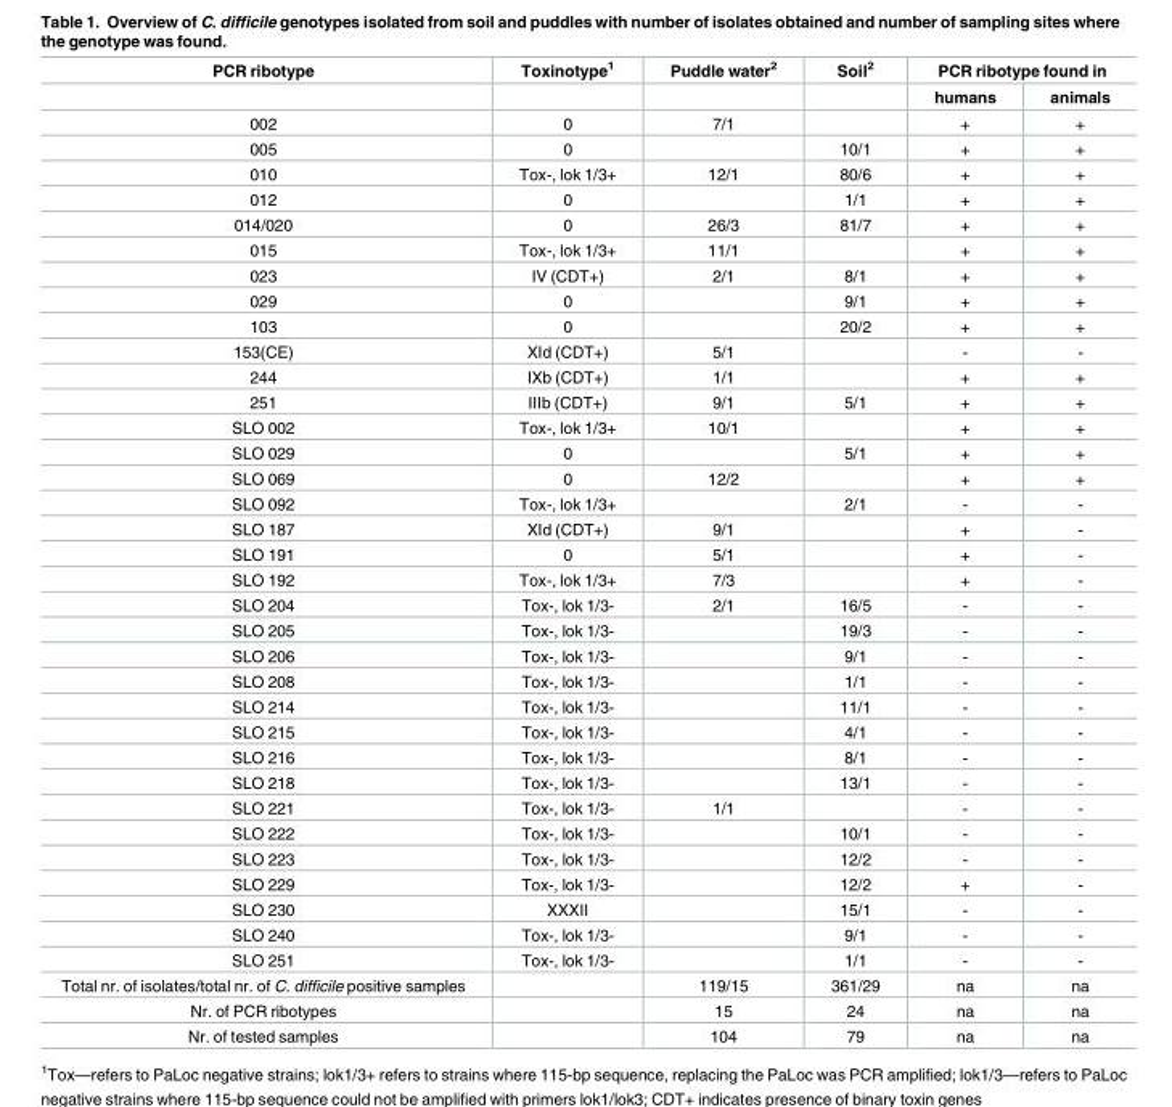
<table><thead><tr><td rowspan="2">PCR ribotype</td><td rowspan="2">Toxinotype<sup>1</sup></td><td rowspan="2">Puddle water<sup>2</sup></td><td rowspan="2">Soil<sup>2</sup></td><td colspan="2">PCR ribotype found in</td></tr><tr><td>humans</td><td>animals</td></tr></thead><tbody><tr><td>002</td><td>0</td><td>7/1</td><td></td><td>+</td><td>+</td></tr><tr><td>005</td><td>0</td><td></td><td>10/1</td><td>+</td><td>+</td></tr><tr><td>010</td><td>Tox-, lok 1/3+</td><td>12/1</td><td>80/6</td><td>+</td><td>+</td></tr><tr><td>012</td><td>0</td><td></td><td>1/1</td><td>+</td><td>+</td></tr><tr><td>014/020</td><td>0</td><td>26/3</td><td>81/7</td><td>+</td><td>+</td></tr><tr><td>015</td><td>Tox-, lok 1/3+</td><td>11/1</td><td></td><td>+</td><td>+</td></tr><tr><td>023</td><td>IV (CDT+)</td><td>2/1</td><td>8/1</td><td>+</td><td>+</td></tr><tr><td>029</td><td>0</td><td></td><td>9/1</td><td>+</td><td>+</td></tr><tr><td>103</td><td>0</td><td></td><td>20/2</td><td>+</td><td>+</td></tr><tr><td>153(CE)</td><td>XId (CDT+)</td><td>5/1</td><td></td><td>-</td><td>-</td></tr><tr><td>244</td><td>IXb (CDT+)</td><td>1/1</td><td></td><td>+</td><td>+</td></tr><tr><td>251</td><td>IIIb (CDT+)</td><td>9/1</td><td>5/1</td><td>+</td><td>+</td></tr><tr><td>SLO 002</td><td>Tox-, lok 1/3+</td><td>10/1</td><td></td><td>+</td><td>+</td></tr><tr><td>SLO 029</td><td>0</td><td></td><td>5/1</td><td>+</td><td>+</td></tr><tr><td>SLO 069</td><td>0</td><td>12/2</td><td></td><td>+</td><td>+</td></tr><tr><td>SLO 092</td><td>Tox-, lok 1/3+</td><td></td><td>2/1</td><td>-</td><td>-</td></tr><tr><td>SLO 187</td><td>XId (CDT+)</td><td>9/1</td><td></td><td>+</td><td>-</td></tr><tr><td>SLO 191</td><td>0</td><td>5/1</td><td></td><td>+</td><td>-</td></tr><tr><td>SLO 192</td><td>Tox-, lok 1/3+</td><td>7/3</td><td></td><td>+</td><td>-</td></tr><tr><td>SLO 204</td><td>Tox-, lok 1/3-</td><td>2/1</td><td>16/5</td><td>-</td><td>-</td></tr><tr><td>SLO 205</td><td>Tox-, lok 1/3-</td><td></td><td>19/3</td><td>-</td><td>-</td></tr><tr><td>SLO 206</td><td>Tox-, lok 1/3-</td><td></td><td>9/1</td><td>-</td><td>-</td></tr><tr><td>SLO 208</td><td>Tox-, lok 1/3-</td><td></td><td>1/1</td><td>-</td><td>-</td></tr><tr><td>SLO 214</td><td>Tox-, lok 1/3-</td><td></td><td>11/1</td><td>-</td><td>-</td></tr><tr><td>SLO 215</td><td>Tox-, lok 1/3-</td><td></td><td>4/1</td><td>-</td><td>-</td></tr><tr><td>SLO 216</td><td>Tox-, lok 1/3-</td><td></td><td>8/1</td><td>-</td><td>-</td></tr><tr><td>SLO 218</td><td>Tox-, lok 1/3-</td><td></td><td>13/1</td><td>-</td><td>-</td></tr><tr><td>SLO 221</td><td>Tox-, lok 1/3-</td><td>1/1</td><td></td><td>-</td><td>-</td></tr><tr><td>SLO 222</td><td>Tox-, lok 1/3-</td><td></td><td>10/1</td><td>-</td><td>-</td></tr><tr><td>SLO 223</td><td>Tox-, lok 1/3-</td><td></td><td>12/2</td><td>-</td><td>-</td></tr><tr><td>SLO 229</td><td>Tox-, lok 1/3-</td><td></td><td>12/2</td><td>+</td><td>-</td></tr><tr><td>SLO 230</td><td>XXXII</td><td></td><td>15/1</td><td>-</td><td>-</td></tr><tr><td>SLO 240</td><td>Tox-, lok 1/3-</td><td></td><td>9/1</td><td>-</td><td>-</td></tr><tr><td>SLO 251</td><td>Tox-, lok 1/3-</td><td></td><td>1/1</td><td>-</td><td>-</td></tr><tr><td>Total nr. of isolates/total nr. of C. difficile positive samples</td><td></td><td>119/15</td><td>361/29</td><td>na</td><td>na</td></tr><tr><td>Nr. of PCR ribotypes</td><td></td><td>15</td><td>24</td><td>na</td><td>na</td></tr><tr><td>Nr. of tested samples</td><td></td><td>104</td><td>79</td><td>na</td><td>na</td></tr></tbody></table>